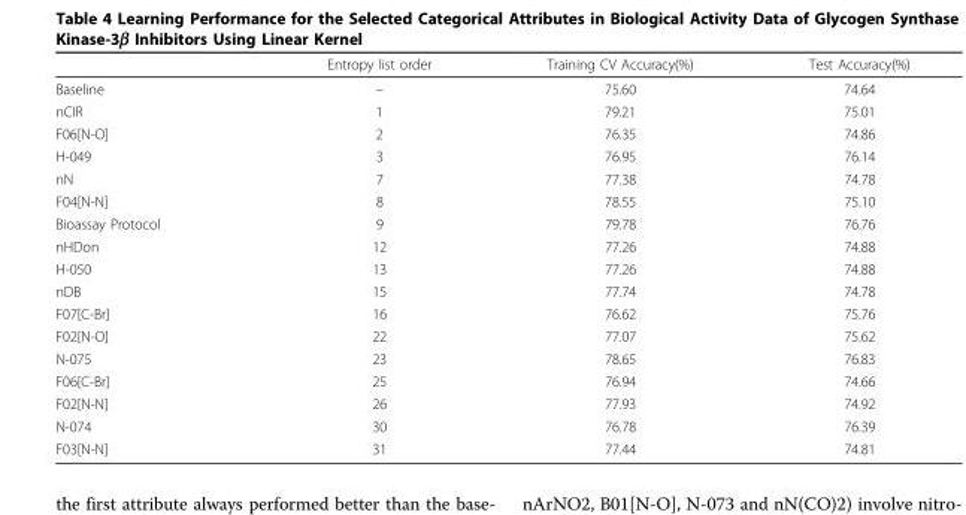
<table><thead><tr><td></td><td>Entropy list order</td><td>Training CV Accuracy(%)</td><td>Test Accuracy(%)</td></tr></thead><tbody><tr><td>Baseline</td><td>–</td><td>75.60</td><td>74.64</td></tr><tr><td>nCIR</td><td>1</td><td>79.21</td><td>75.01</td></tr><tr><td>F06[N-O]</td><td>2</td><td>76.35</td><td>74.86</td></tr><tr><td>H-049</td><td>3</td><td>76.95</td><td>76.14</td></tr><tr><td>nN</td><td>7</td><td>77.38</td><td>74.78</td></tr><tr><td>F04[N-N]</td><td>8</td><td>78.55</td><td>75.10</td></tr><tr><td>Bioassay Protocol</td><td>9</td><td>79.78</td><td>76.76</td></tr><tr><td>nHDon</td><td>12</td><td>77.26</td><td>74.88</td></tr><tr><td>H-050</td><td>13</td><td>77.26</td><td>74.88</td></tr><tr><td>nDB</td><td>15</td><td>77.74</td><td>74.78</td></tr><tr><td>F07[C-Br]</td><td>16</td><td>76.62</td><td>75.76</td></tr><tr><td>F02[N-O]</td><td>22</td><td>77.07</td><td>75.62</td></tr><tr><td>N-075</td><td>23</td><td>78.65</td><td>76.83</td></tr><tr><td>F06[C-Br]</td><td>25</td><td>76.94</td><td>74.66</td></tr><tr><td>F02[N-N]</td><td>26</td><td>77.93</td><td>74.92</td></tr><tr><td>N-074</td><td>30</td><td>76.78</td><td>76.39</td></tr><tr><td>F03[N-N]</td><td>31</td><td>77.44</td><td>74.81</td></tr></tbody></table>